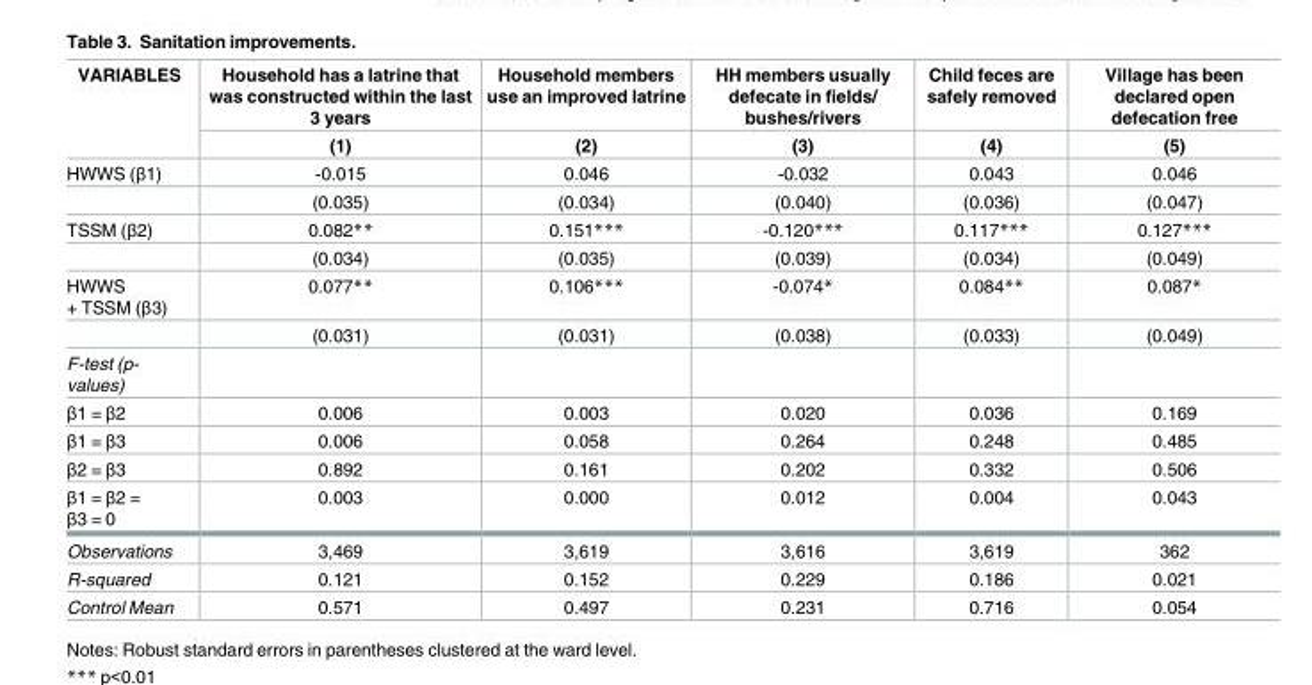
<table><thead><tr><td rowspan="2">VARIABLES</td><td rowspan="2">Household has a latrine that was constructed within the last 3 years (1)</td><td rowspan="2">Household members use an improved latrine (2)</td><td rowspan="2">HH members usually defecate in fields/ bushes/rivers (3)</td><td rowspan="2">Child feces are safely removed (4)</td><td rowspan="2">Village has been declared open defecation free (5)</td></tr><tr></tr></thead><tbody><tr><td rowspan="2">HWWS (β1)</td><td>-0.015</td><td>0.046</td><td>-0.032</td><td>0.043</td><td>0.046</td></tr><tr><td>(0.035)</td><td>(0.034)</td><td>(0.040)</td><td>(0.036)</td><td>(0.047)</td></tr><tr><td rowspan="2">TSSM (β2)</td><td>0.082**</td><td>0.151***</td><td>-0.120***</td><td>0.117***</td><td>0.127***</td></tr><tr><td>(0.034)</td><td>(0.035)</td><td>(0.039)</td><td>(0.034)</td><td>(0.049)</td></tr><tr><td rowspan="2">HWWS + TSSM (β3)</td><td>0.077**</td><td>0.106***</td><td>-0.074*</td><td>0.084**</td><td>0.087*</td></tr><tr><td>(0.031)</td><td>(0.031)</td><td>(0.038)</td><td>(0.033)</td><td>(0.049)</td></tr><tr><td colspan="6">F-test (p- values)</td></tr><tr><td>β1 = β2</td><td>0.006</td><td>0.003</td><td>0.020</td><td>0.036</td><td>0.169</td></tr><tr><td>β1 = β3</td><td>0.006</td><td>0.058</td><td>0.264</td><td>0.248</td><td>0.485</td></tr><tr><td>β2 = β3</td><td>0.892</td><td>0.161</td><td>0.202</td><td>0.332</td><td>0.506</td></tr><tr><td>β1 = β2 = β3 = 0</td><td>0.003</td><td>0.000</td><td>0.012</td><td>0.004</td><td>0.043</td></tr><tr><td>Observations</td><td>3,469</td><td>3,619</td><td>3,616</td><td>3,619</td><td>362</td></tr><tr><td>R-squared</td><td>0.121</td><td>0.152</td><td>0.229</td><td>0.186</td><td>0.021</td></tr><tr><td>Control Mean</td><td>0.571</td><td>0.497</td><td>0.231</td><td>0.716</td><td>0.054</td></tr></tbody></table>